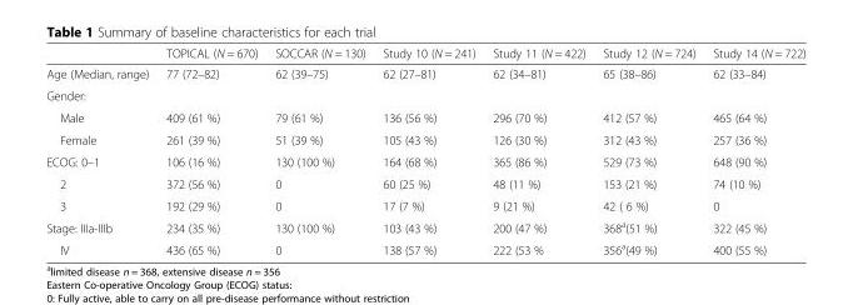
<table><thead><tr><td></td><td>TOPICAL (N = 670)</td><td>SOCCAR (N = 130)</td><td>Study 10 (N = 241)</td><td>Study 11 (N = 422)</td><td>Study 12 (N = 724)</td><td>Study 14 (N = 722)</td></tr></thead><tbody><tr><td>Age (Median, range)</td><td>77 (72–82)</td><td>62 (39–75)</td><td>62 (27–81)</td><td>62 (34–81)</td><td>65 (38–86)</td><td>62 (33–84)</td></tr><tr><td colspan="7">Gender:</td></tr><tr><td>Male</td><td>409 (61 %)</td><td>79 (61 %)</td><td>136 (56 %)</td><td>296 (70 %)</td><td>412 (57 %)</td><td>465 (64 %)</td></tr><tr><td>Female</td><td>261 (39 %)</td><td>51 (39 %)</td><td>105 (43 %)</td><td>126 (30 %)</td><td>312 (43 %)</td><td>257 (36 %)</td></tr><tr><td>ECOG: 0–1</td><td>106 (16 %)</td><td>130 (100 %)</td><td>164 (68 %)</td><td>365 (86 %)</td><td>529 (73 %)</td><td>648 (90 %)</td></tr><tr><td>2</td><td>372 (56 %)</td><td>0</td><td>60 (25 %)</td><td>48 (11 %)</td><td>153 (21 %)</td><td>74 (10 %)</td></tr><tr><td>3</td><td>192 (29 %)</td><td>0</td><td>17 (7 %)</td><td>9 (21 %)</td><td>42 ( 6 %)</td><td>0</td></tr><tr><td>Stage: IIIa-IIIb</td><td>234 (35 %)</td><td>130 (100 %)</td><td>103 (43 %)</td><td>200 (47 %)</td><td>368<sup>a</sup>(51 %)</td><td>322 (45 %)</td></tr><tr><td>IV</td><td>436 (65 %)</td><td>0</td><td>138 (57 %)</td><td>222 (53 %</td><td>356<sup>a</sup>(49 %)</td><td>400 (55 %)</td></tr></tbody></table>